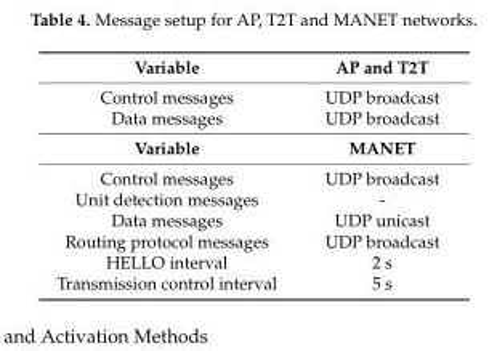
<table><tbody><tr><td>Variable</td><td>AP and T2T</td></tr><tr><td>Control messages</td><td>UDP broadcast</td></tr><tr><td>Data messages</td><td>UDP broadcast</td></tr><tr><td>Variable</td><td>MANET</td></tr><tr><td>Control messages</td><td>UDP broadcast</td></tr><tr><td>Unit detection messages</td><td>-</td></tr><tr><td>Data messages</td><td>UDP unicast</td></tr><tr><td>Routing protocol messages</td><td>UDP broadcast</td></tr><tr><td>HELLO interval</td><td>2 s</td></tr><tr><td>Transmission control interval</td><td>5 s</td></tr></tbody></table>